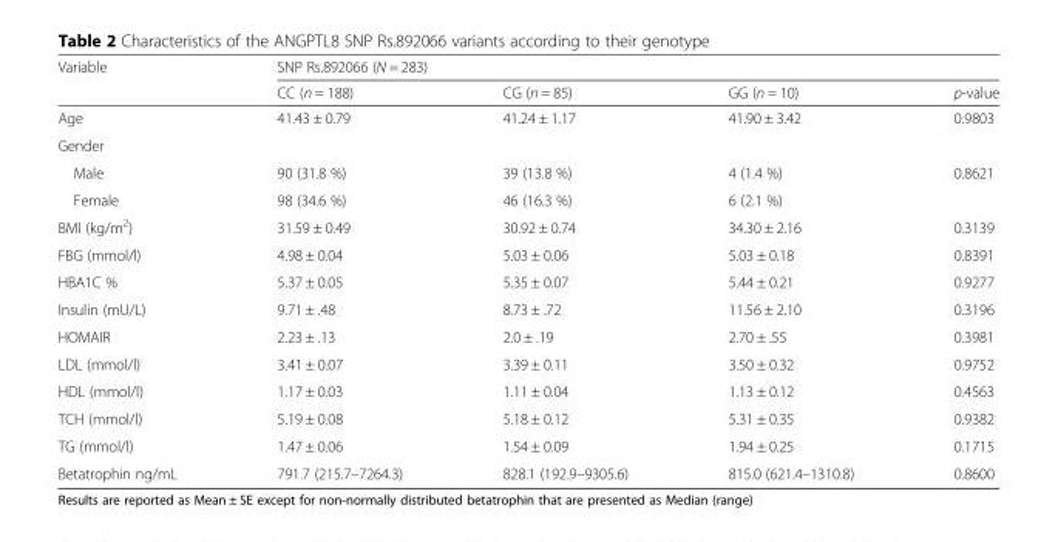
<table><thead><tr><td rowspan="2">Variable</td><td colspan="4">SNP Rs.892066 (N = 283)</td></tr><tr><td>CC (n = 188)</td><td>CG (n = 85)</td><td>GG (n = 10)</td><td>p-value</td></tr></thead><tbody><tr><td>Age</td><td>41.43 ± 0.79</td><td>41.24 ± 1.17</td><td>41.90 ± 3.42</td><td>0.9803</td></tr><tr><td colspan="5">Gender</td></tr><tr><td>Male</td><td>90 (31.8 %)</td><td>39 (13.8 %)</td><td>4 (1.4 %)</td><td>0.8621</td></tr><tr><td>Female</td><td>98 (34.6 %)</td><td>46 (16.3 %)</td><td>6 (2.1 %)</td><td></td></tr><tr><td>BMI (kg/m<sup>2</sup>)</td><td>31.59 ± 0.49</td><td>30.92 ± 0.74</td><td>34.30 ± 2.16</td><td>0.3139</td></tr><tr><td>FBG (mmol/l)</td><td>4.98 ± 0.04</td><td>5.03 ± 0.06</td><td>5.03 ± 0.18</td><td>0.8391</td></tr><tr><td>HBA1C %</td><td>5.37 ± 0.05</td><td>5.35 ± 0.07</td><td>5.44 ± 0.21</td><td>0.9277</td></tr><tr><td>Insulin (mU/L)</td><td>9.71 ± .48</td><td>8.73 ± .72</td><td>11.56 ± 2.10</td><td>0.3196</td></tr><tr><td>HOMAIR</td><td>2.23 ± .13</td><td>2.0 ± .19</td><td>2.70 ± .55</td><td>0.3981</td></tr><tr><td>LDL (mmol/l)</td><td>3.41 ± 0.07</td><td>3.39 ± 0.11</td><td>3.50 ± 0.32</td><td>0.9752</td></tr><tr><td>HDL (mmol/l)</td><td>1.17 ± 0.03</td><td>1.11 ± 0.04</td><td>1.13 ± 0.12</td><td>0.4563</td></tr><tr><td>TCH (mmol/l)</td><td>5.19 ± 0.08</td><td>5.18 ± 0.12</td><td>5.31 ± 0.35</td><td>0.9382</td></tr><tr><td>TG (mmol/l)</td><td>1.47 ± 0.06</td><td>1.54 ± 0.09</td><td>1.94 ± 0.25</td><td>0.1715</td></tr><tr><td>Betatrophin ng/mL</td><td>791.7 (215.7–7264.3)</td><td>828.1 (192.9–9305.6)</td><td>815.0 (621.4–1310.8)</td><td>0.8600</td></tr></tbody></table>